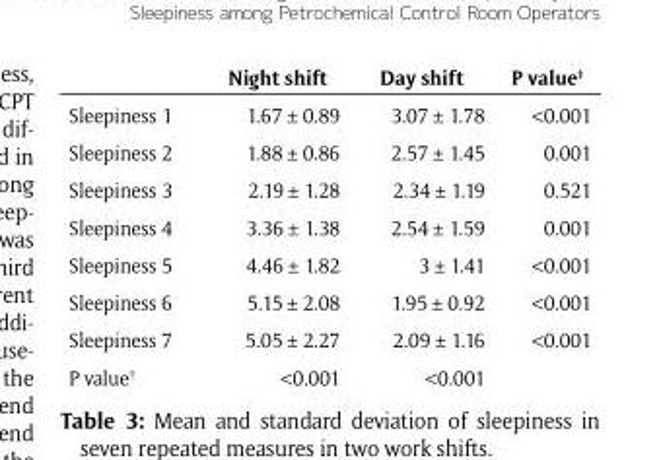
<table><thead><tr><td></td><td>Night shift</td><td>Day shift</td><td>P value<sup>‡</sup></td></tr></thead><tbody><tr><td>Sleepiness 1</td><td>1.67 ± 0.89</td><td>3.07 ± 1.78</td><td>&lt;0.001</td></tr><tr><td>Sleepiness 2</td><td>1.88 ± 0.86</td><td>2.57 ± 1.45</td><td>0.001</td></tr><tr><td>Sleepiness 3</td><td>2.19 ± 1.28</td><td>2.34 ± 1.19</td><td>0.521</td></tr><tr><td>Sleepiness 4</td><td>3.36 ± 1.38</td><td>2.54 ± 1.59</td><td>0.001</td></tr><tr><td>Sleepiness 5</td><td>4.46 ± 1.82</td><td>3 ± 1.41</td><td>&lt;0.001</td></tr><tr><td>Sleepiness 6</td><td>5.15 ± 2.08</td><td>1.95 ± 0.92</td><td>&lt;0.001</td></tr><tr><td>Sleepiness 7</td><td>5.05 ± 2.27</td><td>2.09 ± 1.16</td><td>&lt;0.001</td></tr><tr><td>P value<sup>†</sup></td><td>&lt;0.001</td><td>&lt;0.001</td><td></td></tr></tbody></table>